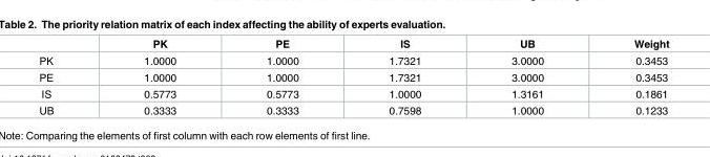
<table><thead><tr><td></td><td>PK</td><td>PE</td><td>IS</td><td>UB</td><td>Weight</td></tr></thead><tbody><tr><td>PK</td><td>1.0000</td><td>1.0000</td><td>1.7321</td><td>3.0000</td><td>0.3453</td></tr><tr><td>PE</td><td>1.0000</td><td>1.0000</td><td>1.7321</td><td>3.0000</td><td>0.3453</td></tr><tr><td>IS</td><td>0.5773</td><td>0.5773</td><td>1.0000</td><td>1.3161</td><td>0.1861</td></tr><tr><td>UB</td><td>0.3333</td><td>0.3333</td><td>0.7598</td><td>1.0000</td><td>0.1233</td></tr></tbody></table>